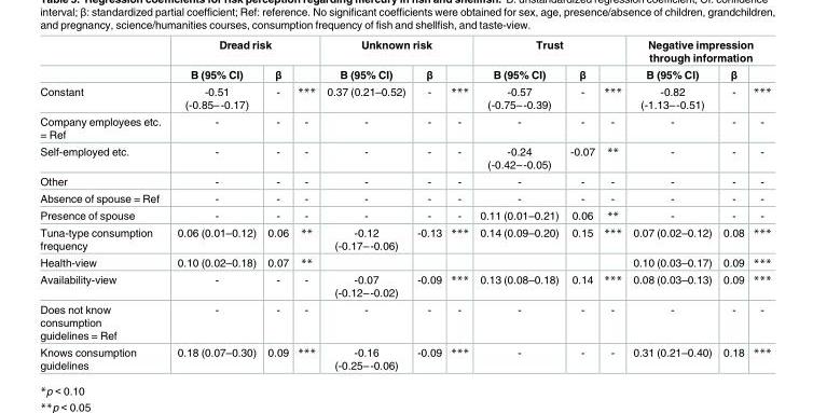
<table><thead><tr><td rowspan="2"></td><td colspan="3">Dread risk</td><td colspan="3">Unknown risk</td><td colspan="3">Trust</td><td colspan="3">Negative impression through information</td></tr><tr><td>B (95% CI)</td><td>β</td><td></td><td>B (95% CI)</td><td>β</td><td></td><td>B (95% CI)</td><td>β</td><td></td><td>B (95% CI)</td><td>β</td><td></td></tr></thead><tbody><tr><td>Constant</td><td>-0.51 (-0.85–-0.17)</td><td>-</td><td>***</td><td>0.37 (0.21–0.52)</td><td>-</td><td>***</td><td>-0.57 (-0.75–-0.39)</td><td>-</td><td>***</td><td>-0.82 (-1.13–-0.51)</td><td>-</td><td>***</td></tr><tr><td>Company employees etc. = Ref</td><td>-</td><td>-</td><td>-</td><td>-</td><td>-</td><td>-</td><td>-</td><td>-</td><td>-</td><td>-</td><td>-</td><td>-</td></tr><tr><td>Self-employed etc.</td><td>-</td><td>-</td><td>-</td><td>-</td><td>-</td><td>-</td><td>-0.24 (-0.42–-0.05)</td><td>-0.07</td><td>**</td><td>-</td><td>-</td><td>-</td></tr><tr><td>Other</td><td>-</td><td>-</td><td>-</td><td>-</td><td>-</td><td>-</td><td>-</td><td>-</td><td>-</td><td>-</td><td>-</td><td>-</td></tr><tr><td>Absence of spouse = Ref</td><td>-</td><td>-</td><td>-</td><td>-</td><td>-</td><td>-</td><td>-</td><td>-</td><td>-</td><td>-</td><td>-</td><td>-</td></tr><tr><td>Presence of spouse</td><td>-</td><td>-</td><td>-</td><td>-</td><td>-</td><td>-</td><td>0.11 (0.01–0.21)</td><td>0.06</td><td>**</td><td>-</td><td>-</td><td>-</td></tr><tr><td>Tuna-type consumption frequency</td><td>0.06 (0.01–0.12)</td><td>0.06</td><td>**</td><td>-0.12 (-0.17–-0.06)</td><td>-0.13</td><td>***</td><td>0.14 (0.09–0.20)</td><td>0.15</td><td>***</td><td>0.07 (0.02–0.12)</td><td>0.08</td><td>***</td></tr><tr><td>Health-view</td><td>0.10 (0.02–0.18)</td><td>0.07</td><td>**</td><td></td><td></td><td></td><td></td><td></td><td></td><td>0.10 (0.03–0.17)</td><td>0.09</td><td>***</td></tr><tr><td>Availability-view</td><td>-</td><td>-</td><td>-</td><td>-0.07 (-0.12–-0.02)</td><td>-0.09</td><td>***</td><td>0.13 (0.08–0.18)</td><td>0.14</td><td>***</td><td>0.08 (0.03–0.13)</td><td>0.09</td><td>***</td></tr><tr><td>Does not know consumption guidelines = Ref</td><td>-</td><td>-</td><td>-</td><td>-</td><td>-</td><td>-</td><td>-</td><td>-</td><td>-</td><td>-</td><td>-</td><td>-</td></tr><tr><td>Knows consumption guidelines</td><td>0.18 (0.07–0.30)</td><td>0.09</td><td>***</td><td>-0.16 (-0.25–-0.06)</td><td>-0.09</td><td>***</td><td>-</td><td>-</td><td>-</td><td>0.31 (0.21–0.40)</td><td>0.18</td><td>***</td></tr></tbody></table>